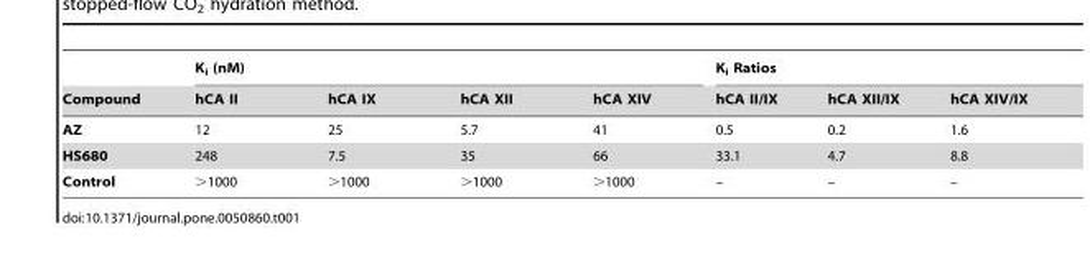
<table><thead><tr><td rowspan="2">Compound</td><td colspan="4">K<sub>i</sub> (nM)</td><td colspan="3">K<sub>i</sub> Ratios</td></tr><tr><td>hCA II</td><td>hCA IX</td><td>hCA XII</td><td>hCA XIV</td><td>hCA II/IX</td><td>hCA XII/IX</td><td>hCA XIV/IX</td></tr></thead><tbody><tr><td>AZ</td><td>12</td><td>25</td><td>5.7</td><td>41</td><td>0.5</td><td>0.2</td><td>1.6</td></tr><tr><td>HS680</td><td>248</td><td>7.5</td><td>35</td><td>66</td><td>33.1</td><td>4.7</td><td>8.8</td></tr><tr><td>Control</td><td>&gt;1000</td><td>&gt;1000</td><td>&gt;1000</td><td>&gt;1000</td><td>–</td><td>–</td><td>–</td></tr></tbody></table>